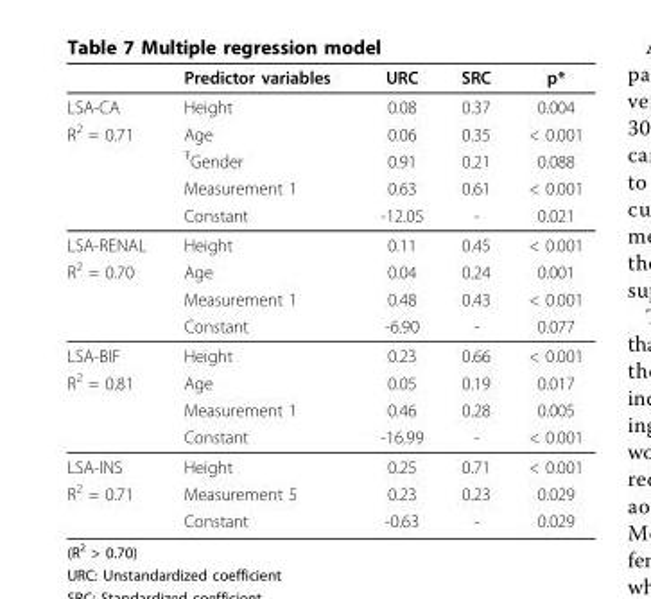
<table><thead><tr><td></td><td>Predictor variables</td><td>URC</td><td>SRC</td><td>p*</td></tr></thead><tbody><tr><td>LSA-CA</td><td>Height</td><td>0.08</td><td>0.37</td><td>0.004</td></tr><tr><td rowspan="4">R<sup>2</sup> = 0.71</td><td>Age</td><td>0.06</td><td>0.35</td><td>&lt; 0.001</td></tr><tr><td><sup>Ŧ</sup>Gender</td><td>0.91</td><td>0.21</td><td>0.088</td></tr><tr><td>Measurement 1</td><td>0.63</td><td>0.61</td><td>&lt; 0.001</td></tr><tr><td>Constant</td><td>-12.05</td><td>-</td><td>0.021</td></tr><tr><td>LSA-RENAL</td><td>Height</td><td>0.11</td><td>0.45</td><td>&lt; 0.001</td></tr><tr><td rowspan="3">R<sup>2</sup> = 0.70</td><td>Age</td><td>0.04</td><td>0.24</td><td>0.001</td></tr><tr><td>Measurement 1</td><td>0.48</td><td>0.43</td><td>&lt; 0.001</td></tr><tr><td>Constant</td><td>-6.90</td><td>-</td><td>0.077</td></tr><tr><td>LSA-BIF</td><td>Height</td><td>0.23</td><td>0.66</td><td>&lt; 0.001</td></tr><tr><td rowspan="3">R<sup>2</sup> = 0.81</td><td>Age</td><td>0.05</td><td>0.19</td><td>0.017</td></tr><tr><td>Measurement 1</td><td>0.46</td><td>0.28</td><td>0.005</td></tr><tr><td>Constant</td><td>-16.99</td><td>-</td><td>&lt; 0.001</td></tr><tr><td>LSA-INS</td><td>Height</td><td>0.25</td><td>0.71</td><td>&lt; 0.001</td></tr><tr><td rowspan="2">R<sup>2</sup> = 0.71</td><td>Measurement 5</td><td>0.23</td><td>0.23</td><td>0.029</td></tr><tr><td>Constant</td><td>-0.63</td><td>-</td><td>0.029</td></tr></tbody></table>